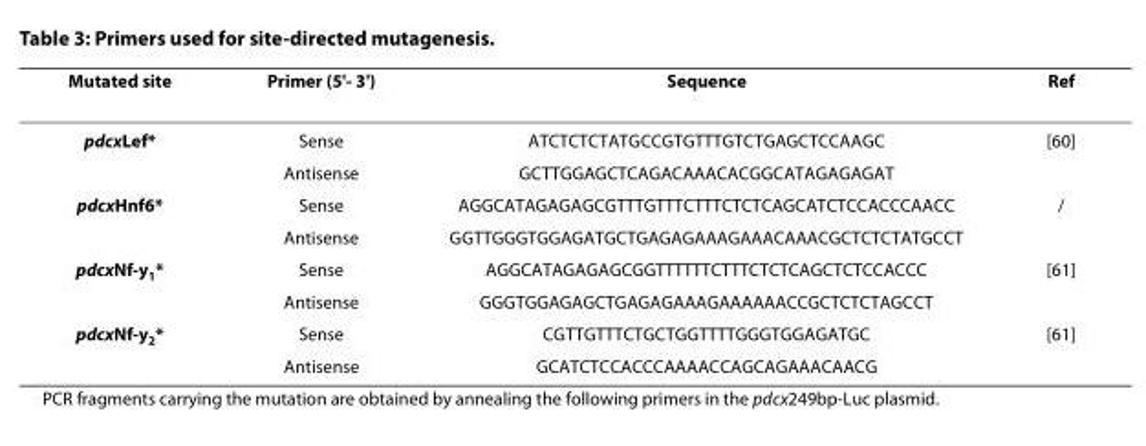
<table><thead><tr><td>Mutated site</td><td>Primer (5&#x27;- 3&#x27;)</td><td>Sequence</td><td>Ref</td></tr></thead><tbody><tr><td rowspan="2">pdcxLef*</td><td>Sense</td><td>ATCTCTCTATGCCGTGTTTGTCTGAGCTCCAAGC</td><td>[60]</td></tr><tr><td>Antisense</td><td>GCTTGGAGCTCAGACAAACACGGCATAGAGAGAT</td><td></td></tr><tr><td rowspan="2">pdcxHnf6*</td><td>Sense</td><td>AGGCATAGAGAGCGTTTGTTTCTTTCTCTCAGCATCTCCACCCAACC</td><td>/</td></tr><tr><td>Antisense</td><td>GGTTGGGTGGAGATGCTGAGAGAAAGAAACAAACGCTCTCTATGCCT</td><td></td></tr><tr><td rowspan="2">pdcxNf-y<sub>1</sub>*</td><td>Sense</td><td>AGGCATAGAGAGCGGTTTTTTCTTTCTCTCAGCTCTCCACCC</td><td>[61]</td></tr><tr><td>Antisense</td><td>GGGTGGAGAGCTGAGAGAAAGAAAAAACCGCTCTCTAGCCT</td><td></td></tr><tr><td rowspan="2">pdcxNf-y<sub>2</sub>*</td><td>Sense</td><td>CGTTGTTTCTGCTGGTTTTGGGTGGAGATGC</td><td>[61]</td></tr><tr><td>Antisense</td><td>GCATCTCCACCCAAAACCAGCAGAAACAACG</td><td></td></tr></tbody></table>